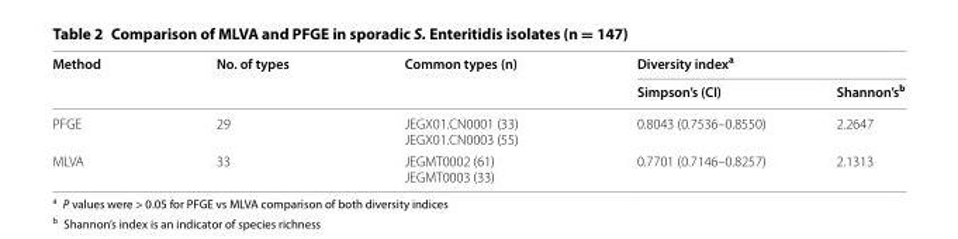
<table><thead><tr><td rowspan="2">Method</td><td rowspan="2">No. of types</td><td rowspan="2">Common types (n)</td><td colspan="2">Diversity index<sup>a</sup></td></tr><tr><td>Simpson’s (CI)</td><td>Shannon’s<sup>b</sup></td></tr></thead><tbody><tr><td>PFGE</td><td>29</td><td>JEGX01.CN0001 (33) JEGX01.CN0003 (55)</td><td>0.8043 (0.7536–0.8550)</td><td>2.2647</td></tr><tr><td>MLVA</td><td>33</td><td>JEGMT0002 (61) JEGMT0003 (33)</td><td>0.7701 (0.7146–0.8257)</td><td>2.1313</td></tr></tbody></table>